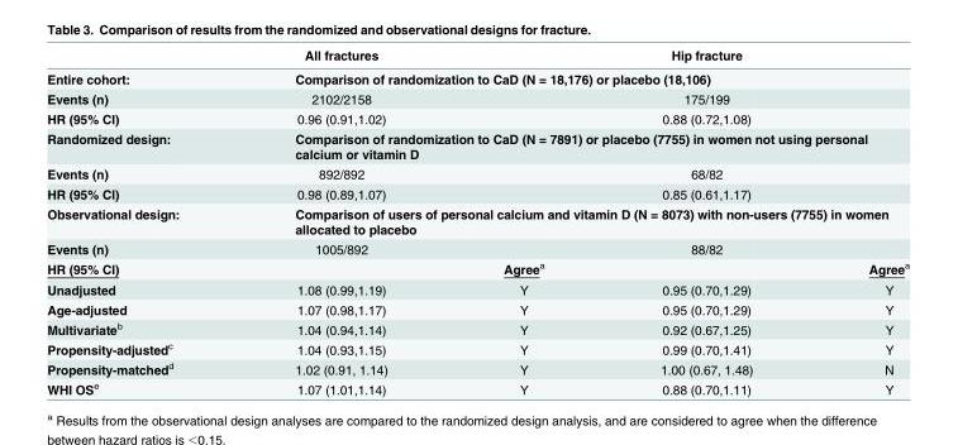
<table><thead><tr><td></td><td>All fractures</td><td></td><td>Hip fracture</td><td></td></tr></thead><tbody><tr><td>Entire cohort:</td><td colspan="4">Comparison of randomization to CaD (N = 18,176) or placebo (18,106)</td></tr><tr><td>Events (n)</td><td>2102/2158</td><td></td><td>175/199</td><td></td></tr><tr><td>HR (95% CI)</td><td>0.96 (0.91,1.02)</td><td></td><td>0.88 (0.72,1.08)</td><td></td></tr><tr><td>Randomized design:</td><td colspan="4">Comparison of randomization to CaD (N = 7891) or placebo (7755) in women not using personal calcium or vitamin D</td></tr><tr><td>Events (n)</td><td>892/892</td><td></td><td>68/82</td><td></td></tr><tr><td>HR (95% CI)</td><td>0.98 (0.89,1.07)</td><td></td><td>0.85 (0.61,1.17)</td><td></td></tr><tr><td>Observational design:</td><td colspan="4">Comparison of users of personal calcium and vitamin D (N = 8073) with non-users (7755) in women allocated to placebo</td></tr><tr><td>Events (n)</td><td>1005/892</td><td></td><td>88/82</td><td></td></tr><tr><td>HR (95% CI)</td><td></td><td>Agree<sup>a</sup></td><td></td><td>Agree<sup>a</sup></td></tr><tr><td>Unadjusted</td><td>1.08 (0.99,1.19)</td><td>Y</td><td>0.95 (0.70,1.29)</td><td>Y</td></tr><tr><td>Age-adjusted</td><td>1.07 (0.98,1.17)</td><td>Y</td><td>0.95 (0.70,1.29)</td><td>Y</td></tr><tr><td>Multivariate<sup>b</sup></td><td>1.04 (0.94,1.14)</td><td>Y</td><td>0.92 (0.67,1.25)</td><td>Y</td></tr><tr><td>Propensity-adjusted<sup>c</sup></td><td>1.04 (0.93,1.15)</td><td>Y</td><td>0.99 (0.70,1.41)</td><td>Y</td></tr><tr><td>Propensity-matched<sup>d</sup></td><td>1.02 (0.91, 1.14)</td><td>Y</td><td>1.00 (0.67, 1.48)</td><td>N</td></tr><tr><td>WHI OS<sup>e</sup></td><td>1.07 (1.01,1.14)</td><td>Y</td><td>0.88 (0.70,1.11)</td><td>Y</td></tr></tbody></table>